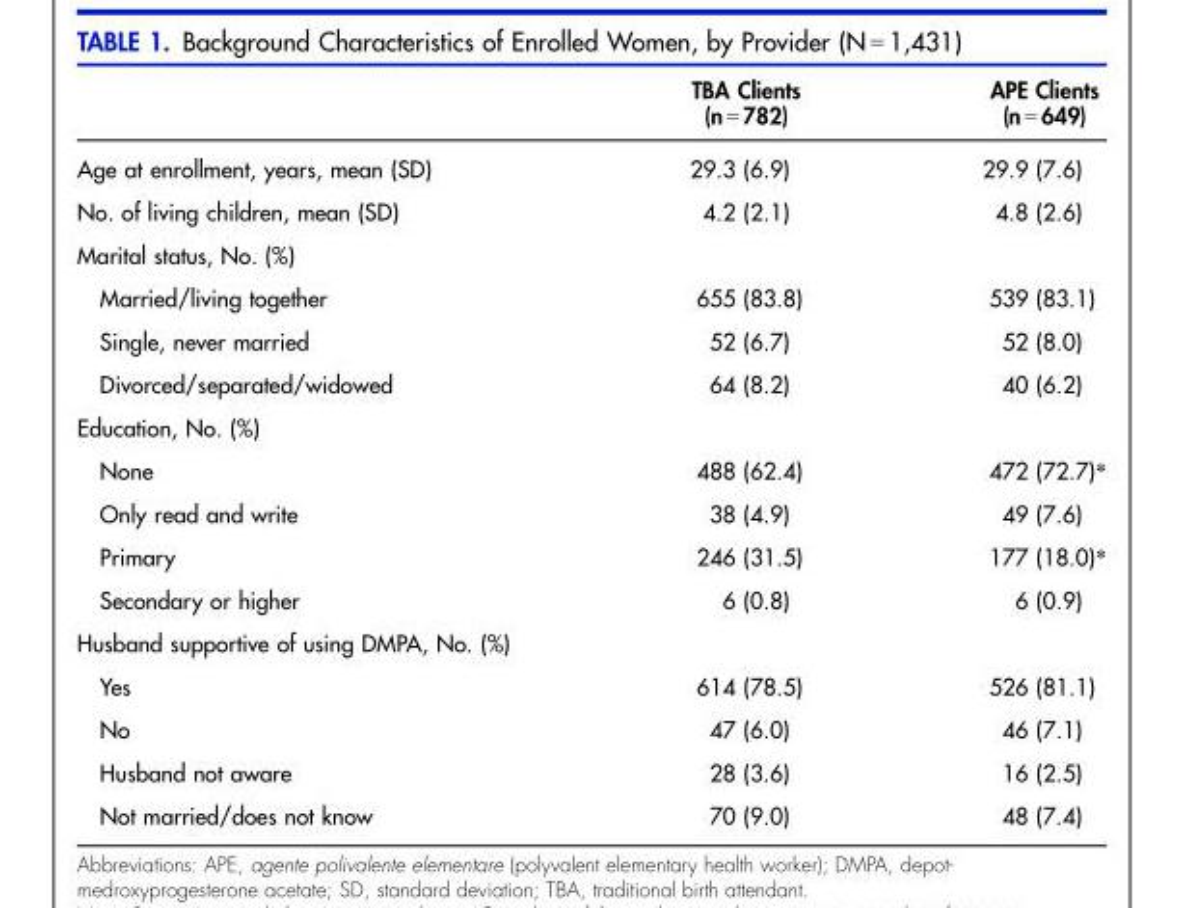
<table><thead><tr><td></td><td>TBA Clients (n = 782)</td><td>APE Clients (n = 649)</td></tr></thead><tbody><tr><td>Age at enrollment, years, mean (SD)</td><td>29.3 (6.9)</td><td>29.9 (7.6)</td></tr><tr><td>No. of living children, mean (SD)</td><td>4.2 (2.1)</td><td>4.8 (2.6)</td></tr><tr><td colspan="3">Marital status, No. (%)</td></tr><tr><td>Married/living together</td><td>655 (83.8)</td><td>539 (83.1)</td></tr><tr><td>Single, never married</td><td>52 (6.7)</td><td>52 (8.0)</td></tr><tr><td>Divorced/separated/widowed</td><td>64 (8.2)</td><td>40 (6.2)</td></tr><tr><td colspan="3">Education, No. (%)</td></tr><tr><td>None</td><td>488 (62.4)</td><td>472 (72.7)*</td></tr><tr><td>Only read and write</td><td>38 (4.9)</td><td>49 (7.6)</td></tr><tr><td>Primary</td><td>246 (31.5)</td><td>177 (18.0)*</td></tr><tr><td>Secondary or higher</td><td>6 (0.8)</td><td>6 (0.9)</td></tr><tr><td colspan="3">Husband supportive of using DMPA, No. (%)</td></tr><tr><td>Yes</td><td>614 (78.5)</td><td>526 (81.1)</td></tr><tr><td>No</td><td>47 (6.0)</td><td>46 (7.1)</td></tr><tr><td>Husband not aware</td><td>28 (3.6)</td><td>16 (2.5)</td></tr><tr><td>Not married/does not know</td><td>70 (9.0)</td><td>48 (7.4)</td></tr></tbody></table>